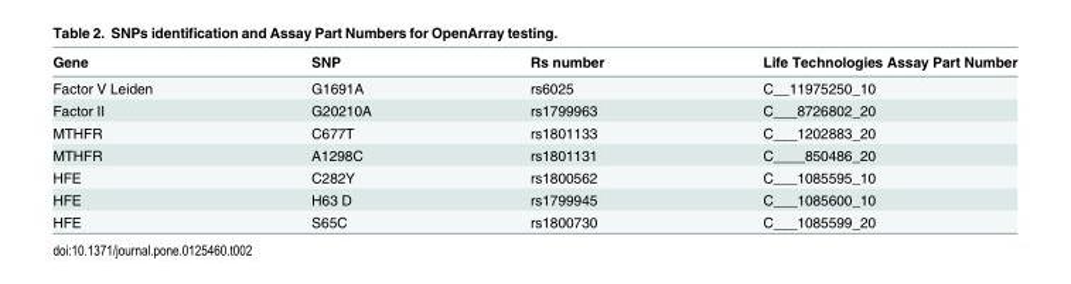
<table><thead><tr><td>Gene</td><td>SNP</td><td>Rs number</td><td>Life Technologies Assay Part Number</td></tr></thead><tbody><tr><td>Factor V Leiden</td><td>G1691A</td><td>rs6025</td><td>C__11975250_10</td></tr><tr><td>Factor II</td><td>G20210A</td><td>rs1799963</td><td>C___8726802_20</td></tr><tr><td>MTHFR</td><td>C677T</td><td>rs1801133</td><td>C___1202883_20</td></tr><tr><td>MTHFR</td><td>A1298C</td><td>rs1801131</td><td>C____850486_20</td></tr><tr><td>HFE</td><td>C282Y</td><td>rs1800562</td><td>C___1085595_10</td></tr><tr><td>HFE</td><td>H63 D</td><td>rs1799945</td><td>C___1085600_10</td></tr><tr><td>HFE</td><td>S65C</td><td>rs1800730</td><td>C___1085599_20</td></tr></tbody></table>